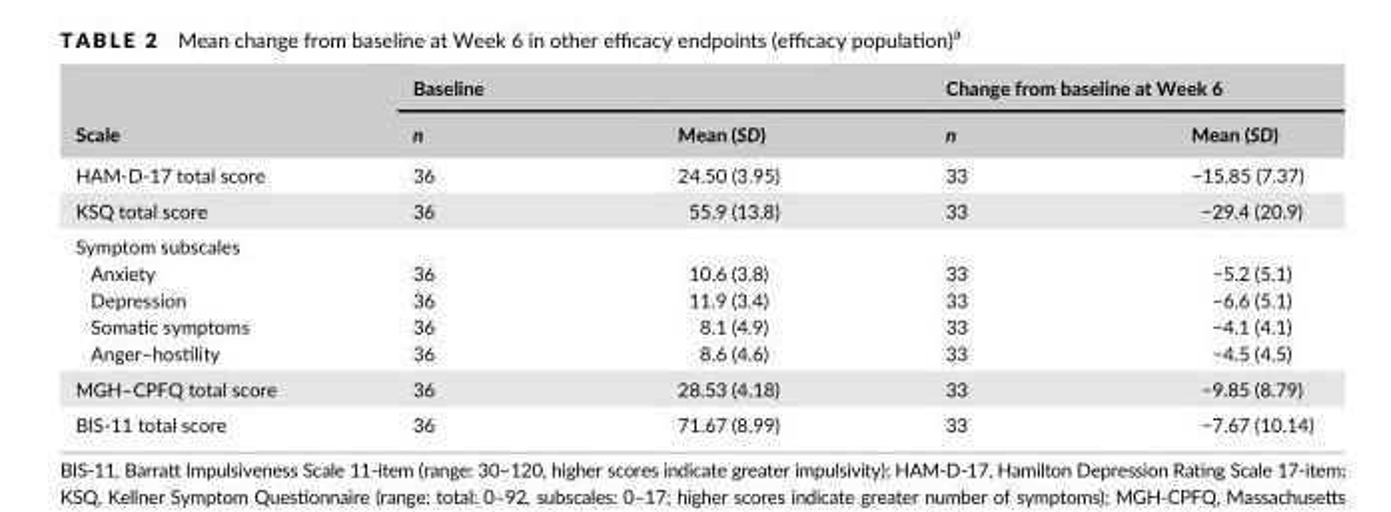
<table><thead><tr><td rowspan="2">Scale</td><td colspan="2">Baseline</td><td colspan="2">Change from baseline at Week 6</td></tr><tr><td>n</td><td>Mean (SD)</td><td>n</td><td>Mean (SD)</td></tr></thead><tbody><tr><td>HAM- D- 17 total score</td><td>36</td><td>24.50 (3.95)</td><td>33</td><td>−15.85 (7.37)</td></tr><tr><td>KSQ total score</td><td>36</td><td>55.9 (13.8)</td><td>33</td><td>−29.4 (20.9)</td></tr><tr><td colspan="5">Symptom subscales</td></tr><tr><td>Anxiety</td><td>36</td><td>10.6 (3.8)</td><td>33</td><td>−5.2 (5.1)</td></tr><tr><td>Depression</td><td>36</td><td>11.9 (3.4)</td><td>33</td><td>−6.6 (5.1)</td></tr><tr><td>Somatic symptoms</td><td>36</td><td>8.1 (4.9)</td><td>33</td><td>−4.1 (4.1)</td></tr><tr><td>Anger–hostility</td><td>36</td><td>8.6 (4.6)</td><td>33</td><td>−4.5 (4.5)</td></tr><tr><td>MGH–CPFQ total score</td><td>36</td><td>28.53 (4.18)</td><td>33</td><td>−9.85 (8.79)</td></tr><tr><td>BIS- 11 total score</td><td>36</td><td>71.67 (8.99)</td><td>33</td><td>−7.67 (10.14)</td></tr></tbody></table>